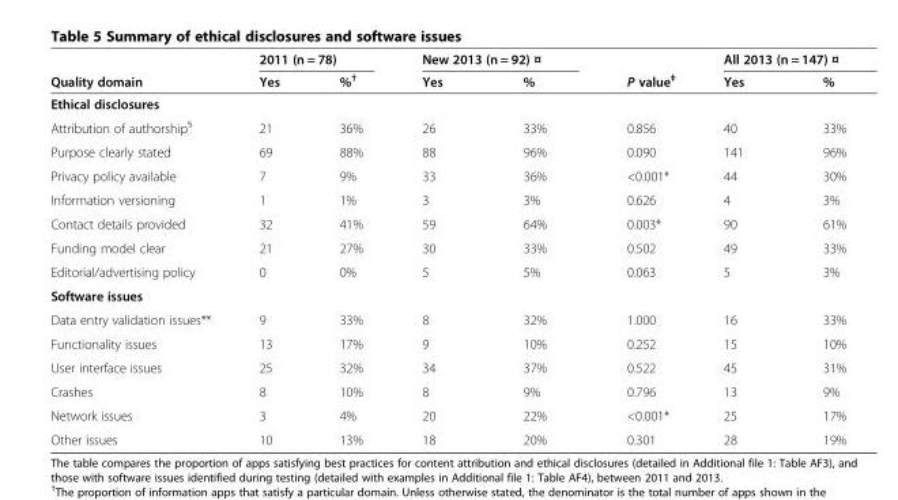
<table><thead><tr><td rowspan="2">Quality domain</td><td colspan="2">2011 (n = 78)</td><td colspan="2">New 2013 (n = 92) ¤</td><td rowspan="2">P value<sup>‡</sup></td><td colspan="2">All 2013 (n = 147) ¤</td></tr><tr><td>Yes</td><td>%<sup>†</sup></td><td>Yes</td><td>%</td><td>Yes</td><td>%</td></tr></thead><tbody><tr><td colspan="8">Ethical disclosures</td></tr><tr><td>Attribution of authorship<sup>§</sup></td><td>21</td><td>36%</td><td>26</td><td>33%</td><td>0.856</td><td>40</td><td>33%</td></tr><tr><td>Purpose clearly stated</td><td>69</td><td>88%</td><td>88</td><td>96%</td><td>0.090</td><td>141</td><td>96%</td></tr><tr><td>Privacy policy available</td><td>7</td><td>9%</td><td>33</td><td>36%</td><td>&lt;0.001*</td><td>44</td><td>30%</td></tr><tr><td>Information versioning</td><td>1</td><td>1%</td><td>3</td><td>3%</td><td>0.626</td><td>4</td><td>3%</td></tr><tr><td>Contact details provided</td><td>32</td><td>41%</td><td>59</td><td>64%</td><td>0.003*</td><td>90</td><td>61%</td></tr><tr><td>Funding model clear</td><td>21</td><td>27%</td><td>30</td><td>33%</td><td>0.502</td><td>49</td><td>33%</td></tr><tr><td>Editorial/advertising policy</td><td>0</td><td>0%</td><td>5</td><td>5%</td><td>0.063</td><td>5</td><td>3%</td></tr><tr><td colspan="8">Software issues</td></tr><tr><td>Data entry validation issues**</td><td>9</td><td>33%</td><td>8</td><td>32%</td><td>1.000</td><td>16</td><td>33%</td></tr><tr><td>Functionality issues</td><td>13</td><td>17%</td><td>9</td><td>10%</td><td>0.252</td><td>15</td><td>10%</td></tr><tr><td>User interface issues</td><td>25</td><td>32%</td><td>34</td><td>37%</td><td>0.522</td><td>45</td><td>31%</td></tr><tr><td>Crashes</td><td>8</td><td>10%</td><td>8</td><td>9%</td><td>0.796</td><td>13</td><td>9%</td></tr><tr><td>Network issues</td><td>3</td><td>4%</td><td>20</td><td>22%</td><td>&lt;0.001*</td><td>25</td><td>17%</td></tr><tr><td>Other issues</td><td>10</td><td>13%</td><td>18</td><td>20%</td><td>0.301</td><td>28</td><td>19%</td></tr></tbody></table>